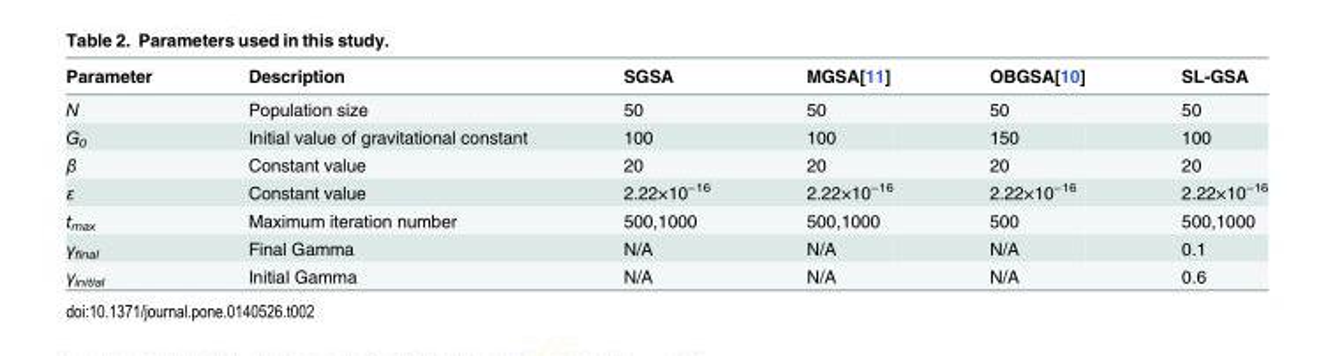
<table><thead><tr><td>Parameter</td><td>Description</td><td>SGSA</td><td>MGSA[11]</td><td>OBGSA[10]</td><td>SL-GSA</td></tr></thead><tbody><tr><td>N</td><td>Population size</td><td>50</td><td>50</td><td>50</td><td>50</td></tr><tr><td>G<sub>0</sub></td><td>Initial value of gravitational constant</td><td>100</td><td>100</td><td>150</td><td>100</td></tr><tr><td>β</td><td>Constant value</td><td>20</td><td>20</td><td>20</td><td>20</td></tr><tr><td>ε</td><td>Constant value</td><td>2.22×10<sup>−16</sup></td><td>2.22×10<sup>−16</sup></td><td>2.22×10<sup>−16</sup></td><td>2.22×10<sup>−16</sup></td></tr><tr><td>t<sub>max</sub></td><td>Maximum iteration number</td><td>500,1000</td><td>500,1000</td><td>500</td><td>500,1000</td></tr><tr><td>γ<sub>final</sub></td><td>Final Gamma</td><td>N/A</td><td>N/A</td><td>N/A</td><td>0.1</td></tr><tr><td>γ<sub>initial</sub></td><td>Initial Gamma</td><td>N/A</td><td>N/A</td><td>N/A</td><td>0.6</td></tr></tbody></table>